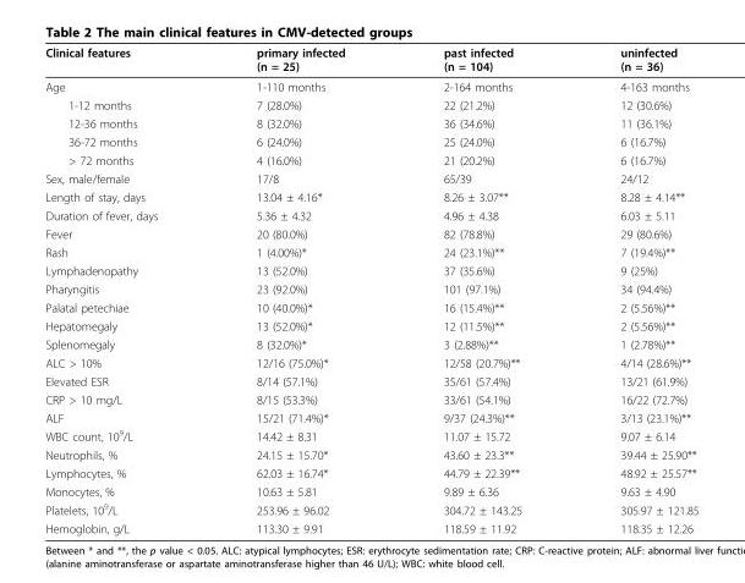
<table><thead><tr><td>Clinical features</td><td>primary infected (n = 25)</td><td>past infected (n = 104)</td><td>uninfected (n = 36)</td></tr></thead><tbody><tr><td>Age</td><td>1-110 months</td><td>2-164 months</td><td>4-163 months</td></tr><tr><td>1-12 months</td><td>7 (28.0%)</td><td>22 (21.2%)</td><td>12 (30.6%)</td></tr><tr><td>12-36 months</td><td>8 (32.0%)</td><td>36 (34.6%)</td><td>11 (36.1%)</td></tr><tr><td>36-72 months</td><td>6 (24.0%)</td><td>25 (24.0%)</td><td>6 (16.7%)</td></tr><tr><td>&gt; 72 months</td><td>4 (16.0%)</td><td>21 (20.2%)</td><td>6 (16.7%)</td></tr><tr><td>Sex, male/female</td><td>17/8</td><td>65/39</td><td>24/12</td></tr><tr><td>Length of stay, days</td><td>13.04 ± 4.16*</td><td>8.26 ± 3.07**</td><td>8.28 ± 4.14**</td></tr><tr><td>Duration of fever, days</td><td>5.36 ± 4.32</td><td>4.96 ± 4.38</td><td>6.03 ± 5.11</td></tr><tr><td>Fever</td><td>20 (80.0%)</td><td>82 (78.8%)</td><td>29 (80.6%)</td></tr><tr><td>Rash</td><td>1 (4.00%)*</td><td>24 (23.1%)**</td><td>7 (19.4%)**</td></tr><tr><td>Lymphadenopathy</td><td>13 (52.0%)</td><td>37 (35.6%)</td><td>9 (25%)</td></tr><tr><td>Pharyngitis</td><td>23 (92.0%)</td><td>101 (97.1%)</td><td>34 (94.4%)</td></tr><tr><td>Palatal petechiae</td><td>10 (40.0%)*</td><td>16 (15.4%)**</td><td>2 (5.56%)**</td></tr><tr><td>Hepatomegaly</td><td>13 (52.0%)*</td><td>12 (11.5%)**</td><td>2 (5.56%)**</td></tr><tr><td>Splenomegaly</td><td>8 (32.0%)*</td><td>3 (2.88%)**</td><td>1 (2.78%)**</td></tr><tr><td>ALC &gt; 10%</td><td>12/16 (75.0%)*</td><td>12/58 (20.7%)**</td><td>4/14 (28.6%)**</td></tr><tr><td>Elevated ESR</td><td>8/14 (57.1%)</td><td>35/61 (57.4%)</td><td>13/21 (61.9%)</td></tr><tr><td>CRP &gt; 10 mg/L</td><td>8/15 (53.3%)</td><td>33/61 (54.1%)</td><td>16/22 (72.7%)</td></tr><tr><td>ALF</td><td>15/21 (71.4%)*</td><td>9/37 (24.3%)**</td><td>3/13 (23.1%)**</td></tr><tr><td>WBC count, 10<sup>9</sup>/L</td><td>14.42 ± 8.31</td><td>11.07 ± 15.72</td><td>9.07 ± 6.14</td></tr><tr><td>Neutrophils, %</td><td>24.15 ± 15.70*</td><td>43.60 ± 23.3**</td><td>39.44 ± 25.90**</td></tr><tr><td>Lymphocytes, %</td><td>62.03 ± 16.74*</td><td>44.79 ± 22.39**</td><td>48.92 ± 25.57**</td></tr><tr><td>Monocytes, %</td><td>10.63 ± 5.81</td><td>9.89 ± 6.36</td><td>9.63 ± 4.90</td></tr><tr><td>Platelets, 10<sup>9</sup>/L</td><td>253.96 ± 96.02</td><td>304.72 ± 143.25</td><td>305.97 ± 121.85</td></tr><tr><td>Hemoglobin, g/L</td><td>113.30 ± 9.91</td><td>118.59 ± 11.92</td><td>118.35 ± 12.26</td></tr></tbody></table>